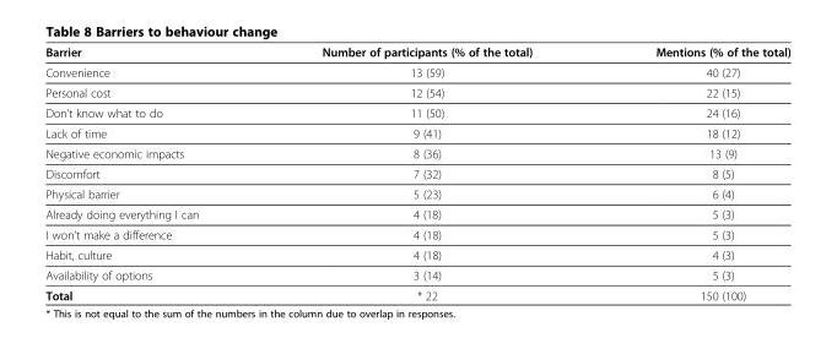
<table><thead><tr><td>Barrier</td><td>Number of participants (% of the total)</td><td>Mentions (% of the total)</td></tr></thead><tbody><tr><td>Convenience</td><td>13 (59)</td><td>40 (27)</td></tr><tr><td>Personal cost</td><td>12 (54)</td><td>22 (15)</td></tr><tr><td>Don’t know what to do</td><td>11 (50)</td><td>24 (16)</td></tr><tr><td>Lack of time</td><td>9 (41)</td><td>18 (12)</td></tr><tr><td>Negative economic impacts</td><td>8 (36)</td><td>13 (9)</td></tr><tr><td>Discomfort</td><td>7 (32)</td><td>8 (5)</td></tr><tr><td>Physical barrier</td><td>5 (23)</td><td>6 (4)</td></tr><tr><td>Already doing everything I can</td><td>4 (18)</td><td>5 (3)</td></tr><tr><td>I won’t make a difference</td><td>4 (18)</td><td>5 (3)</td></tr><tr><td>Habit, culture</td><td>4 (18)</td><td>4 (3)</td></tr><tr><td>Availability of options</td><td>3 (14)</td><td>5 (3)</td></tr><tr><td>Total</td><td>* 22</td><td>150 (100)</td></tr></tbody></table>